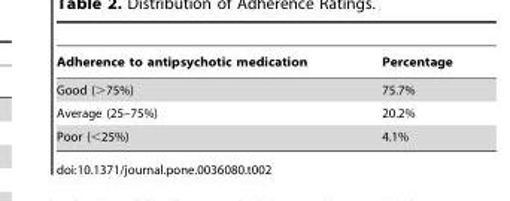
<table><thead><tr><td>Adherence to antipsychotic medication</td><td>Percentage</td></tr></thead><tbody><tr><td>Good (&gt;75%)</td><td>75.7%</td></tr><tr><td>Average (25–75%)</td><td>20.2%</td></tr><tr><td>Poor (&lt;25%)</td><td>4.1%</td></tr></tbody></table>